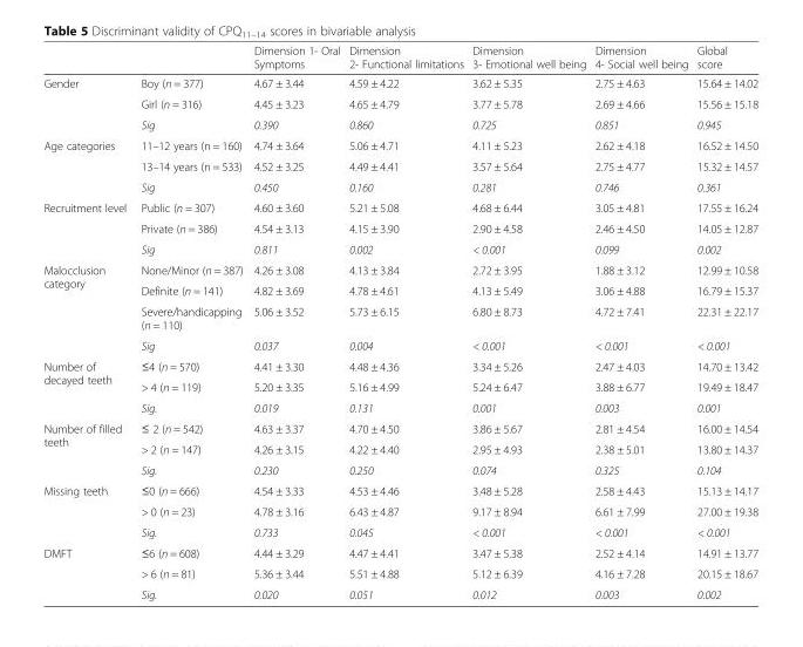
<table><thead><tr><td></td><td></td><td>Dimension 1- Oral Symptoms</td><td>Dimension 2- Functional limitations</td><td>Dimension 3- Emotional well being</td><td>Dimension 4- Social well being</td><td>Global score</td></tr></thead><tbody><tr><td rowspan="3">Gender</td><td>Boy (n = 377)</td><td>4.67 ± 3.44</td><td>4.59 ± 4.22</td><td>3.62 ± 5.35</td><td>2.75 ± 4.63</td><td>15.64 ± 14.02</td></tr><tr><td>Girl (n = 316)</td><td>4.45 ± 3.23</td><td>4.65 ± 4.79</td><td>3.77 ± 5.78</td><td>2.69 ± 4.66</td><td>15.56 ± 15.18</td></tr><tr><td>Sig</td><td>0.390</td><td>0.860</td><td>0.725</td><td>0.851</td><td>0.945</td></tr><tr><td rowspan="3">Age categories</td><td>11–12 years (n = 160)</td><td>4.74 ± 3.64</td><td>5.06 ± 4.71</td><td>4.11 ± 5.23</td><td>2.62 ± 4.18</td><td>16.52 ± 14.50</td></tr><tr><td>13–14 years (n = 533)</td><td>4.52 ± 3.25</td><td>4.49 ± 4.41</td><td>3.57 ± 5.64</td><td>2.75 ± 4.77</td><td>15.32 ± 14.57</td></tr><tr><td>Sig</td><td>0.450</td><td>0.160</td><td>0.281</td><td>0.746</td><td>0.361</td></tr><tr><td rowspan="3">Recruitment level</td><td>Public (n = 307)</td><td>4.60 ± 3.60</td><td>5.21 ± 5.08</td><td>4.68 ± 6.44</td><td>3.05 ± 4.81</td><td>17.55 ± 16.24</td></tr><tr><td>Private (n = 386)</td><td>4.54 ± 3.13</td><td>4.15 ± 3.90</td><td>2.90 ± 4.58</td><td>2.46 ± 4.50</td><td>14.05 ± 12.87</td></tr><tr><td>Sig</td><td>0.811</td><td>0.002</td><td>&lt; 0.001</td><td>0.099</td><td>0.002</td></tr><tr><td rowspan="4">Malocclusion category</td><td>None/Minor (n = 387)</td><td>4.26 ± 3.08</td><td>4.13 ± 3.84</td><td>2.72 ± 3.95</td><td>1.88 ± 3.12</td><td>12.99 ± 10.58</td></tr><tr><td>Definite (n = 141)</td><td>4.82 ± 3.69</td><td>4.78 ± 4.61</td><td>4.13 ± 5.49</td><td>3.06 ± 4.88</td><td>16.79 ± 15.37</td></tr><tr><td>Severe/handicapping (n = 110)</td><td>5.06 ± 3.52</td><td>5.73 ± 6.15</td><td>6.80 ± 8.73</td><td>4.72 ± 7.41</td><td>22.31 ± 22.17</td></tr><tr><td>Sig</td><td>0.037</td><td>0.004</td><td>&lt; 0.001</td><td>&lt; 0.001</td><td>&lt; 0.001</td></tr><tr><td rowspan="3">Number of decayed teeth</td><td>≤4 (n = 570)</td><td>4.41 ± 3.30</td><td>4.48 ± 4.36</td><td>3.34 ± 5.26</td><td>2.47 ± 4.03</td><td>14.70 ± 13.42</td></tr><tr><td>&gt; 4 (n = 119)</td><td>5.20 ± 3.35</td><td>5.16 ± 4.99</td><td>5.24 ± 6.47</td><td>3.88 ± 6.77</td><td>19.49 ± 18.47</td></tr><tr><td>Sig.</td><td>0.019</td><td>0.131</td><td>0.001</td><td>0.003</td><td>0.001</td></tr><tr><td rowspan="3">Number of filled teeth</td><td>≤ 2 (n = 542)</td><td>4.63 ± 3.37</td><td>4.70 ± 4.50</td><td>3.86 ± 5.67</td><td>2.81 ± 4.54</td><td>16.00 ± 14.54</td></tr><tr><td>&gt; 2 (n = 147)</td><td>4.26 ± 3.15</td><td>4.22 ± 4.40</td><td>2.95 ± 4.93</td><td>2.38 ± 5.01</td><td>13.80 ± 14.37</td></tr><tr><td>Sig.</td><td>0.230</td><td>0.250</td><td>0.074</td><td>0.325</td><td>0.104</td></tr><tr><td rowspan="3">Missing teeth</td><td>≤0 (n = 666)</td><td>4.54 ± 3.33</td><td>4.53 ± 4.46</td><td>3.48 ± 5.28</td><td>2.58 ± 4.43</td><td>15.13 ± 14.17</td></tr><tr><td>&gt; 0 (n = 23)</td><td>4.78 ± 3.16</td><td>6.43 ± 4.87</td><td>9.17 ± 8.94</td><td>6.61 ± 7.99</td><td>27.00 ± 19.38</td></tr><tr><td>Sig.</td><td>0.733</td><td>0.045</td><td>&lt; 0.001</td><td>&lt; 0.001</td><td>&lt; 0.001</td></tr><tr><td rowspan="3">DMFT</td><td>≤6 (n = 608)</td><td>4.44 ± 3.29</td><td>4.47 ± 4.41</td><td>3.47 ± 5.38</td><td>2.52 ± 4.14</td><td>14.91 ± 13.77</td></tr><tr><td>&gt; 6 (n = 81)</td><td>5.36 ± 3.44</td><td>5.51 ± 4.88</td><td>5.12 ± 6.39</td><td>4.16 ± 7.28</td><td>20.15 ± 18.67</td></tr><tr><td>Sig.</td><td>0.020</td><td>0.051</td><td>0.012</td><td>0.003</td><td>0.002</td></tr></tbody></table>